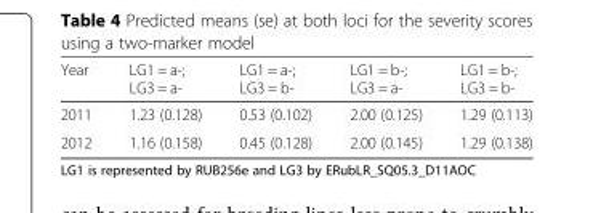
<table><thead><tr><td>Year</td><td>LG1 = a-; LG3 = a-</td><td>LG1 = a-; LG3 = b-</td><td>LG1 = b-; LG3 = a-</td><td>LG1 = b-; LG3 = b-</td></tr></thead><tbody><tr><td>2011</td><td>1.23 (0.128)</td><td>0.53 (0.102)</td><td>2.00 (0.125)</td><td>1.29 (0.113)</td></tr><tr><td>2012</td><td>1.16 (0.158)</td><td>0.45 (0.128)</td><td>2.00 (0.145)</td><td>1.29 (0.138)</td></tr></tbody></table>